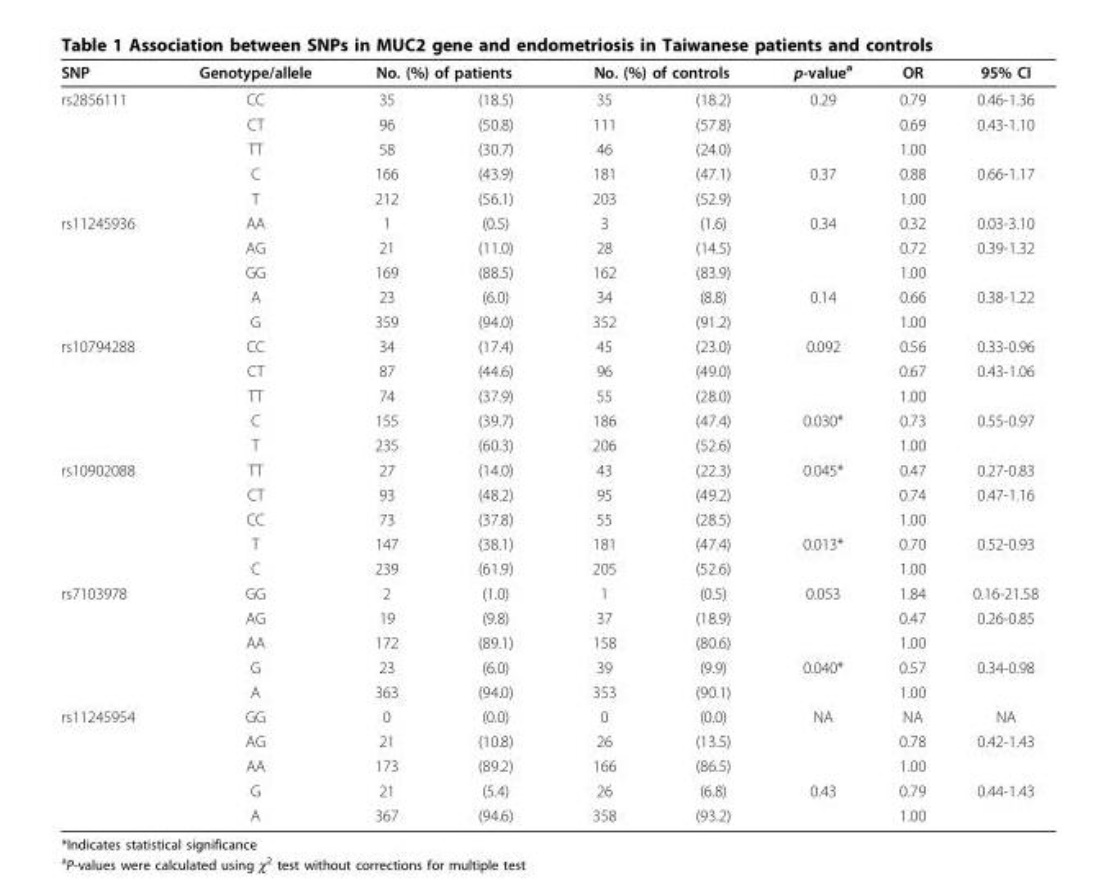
<table><thead><tr><td rowspan="2">SNP rs2856111</td><td rowspan="2">Genotype/allele CC</td><td colspan="2">No. (%) of patients</td><td colspan="2">No. (%) of controls</td><td rowspan="2">p-value<sup>a</sup> 0.29</td><td rowspan="2">OR 0.79</td><td rowspan="2">95% CI 0.46-1.36</td></tr><tr><td>35</td><td>(18.5)</td><td>35</td><td>(18.2)</td></tr></thead><tbody><tr><td></td><td>CT</td><td>96</td><td>(50.8)</td><td>111</td><td>(57.8)</td><td></td><td>0.69</td><td>0.43-1.10</td></tr><tr><td></td><td>TT</td><td>58</td><td>(30.7)</td><td>46</td><td>(24.0)</td><td></td><td>1.00</td><td></td></tr><tr><td></td><td>C</td><td>166</td><td>(43.9)</td><td>181</td><td>(47.1)</td><td>0.37</td><td>0.88</td><td>0.66-1.17</td></tr><tr><td></td><td>T</td><td>212</td><td>(56.1)</td><td>203</td><td>(52.9)</td><td></td><td>1.00</td><td></td></tr><tr><td rowspan="5">rs11245936</td><td>AA</td><td>1</td><td>(0.5)</td><td>3</td><td>(1.6)</td><td>0.34</td><td>0.32</td><td>0.03-3.10</td></tr><tr><td>AG</td><td>21</td><td>(11.0)</td><td>28</td><td>(14.5)</td><td></td><td>0.72</td><td>0.39-1.32</td></tr><tr><td>GG</td><td>169</td><td>(88.5)</td><td>162</td><td>(83.9)</td><td></td><td>1.00</td><td></td></tr><tr><td>A</td><td>23</td><td>(6.0)</td><td>34</td><td>(8.8)</td><td>0.14</td><td>0.66</td><td>0.38-1.22</td></tr><tr><td>G</td><td>359</td><td>(94.0)</td><td>352</td><td>(91.2)</td><td></td><td>1.00</td><td></td></tr><tr><td rowspan="5">rs10794288</td><td>CC</td><td>34</td><td>(17.4)</td><td>45</td><td>(23.0)</td><td>0.092</td><td>0.56</td><td>0.33-0.96</td></tr><tr><td>CT</td><td>87</td><td>(44.6)</td><td>96</td><td>(49.0)</td><td></td><td>0.67</td><td>0.43-1.06</td></tr><tr><td>TT</td><td>74</td><td>(37.9)</td><td>55</td><td>(28.0)</td><td></td><td>1.00</td><td></td></tr><tr><td>C</td><td>155</td><td>(39.7)</td><td>186</td><td>(47.4)</td><td>0.030*</td><td>0.73</td><td>0.55-0.97</td></tr><tr><td>T</td><td>235</td><td>(60.3)</td><td>206</td><td>(52.6)</td><td></td><td>1.00</td><td></td></tr><tr><td rowspan="5">rs10902088</td><td>TT</td><td>27</td><td>(14.0)</td><td>43</td><td>(22.3)</td><td>0.045*</td><td>0.47</td><td>0.27-0.83</td></tr><tr><td>CT</td><td>93</td><td>(48.2)</td><td>95</td><td>(49.2)</td><td></td><td>0.74</td><td>0.47-1.16</td></tr><tr><td>CC</td><td>73</td><td>(37.8)</td><td>55</td><td>(28.5)</td><td></td><td>1.00</td><td></td></tr><tr><td>T</td><td>147</td><td>(38.1)</td><td>181</td><td>(47.4)</td><td>0.013*</td><td>0.70</td><td>0.52-0.93</td></tr><tr><td>C</td><td>239</td><td>(61.9)</td><td>205</td><td>(52.6)</td><td></td><td>1.00</td><td></td></tr><tr><td rowspan="5">rs7103978</td><td>GG</td><td>2</td><td>(1.0)</td><td>1</td><td>(0.5)</td><td>0.053</td><td>1.84</td><td>0.16-21.58</td></tr><tr><td>AG</td><td>19</td><td>(9.8)</td><td>37</td><td>(18.9)</td><td></td><td>0.47</td><td>0.26-0.85</td></tr><tr><td>AA</td><td>172</td><td>(89.1)</td><td>158</td><td>(80.6)</td><td></td><td>1.00</td><td></td></tr><tr><td>G</td><td>23</td><td>(6.0)</td><td>39</td><td>(9.9)</td><td>0.040*</td><td>0.57</td><td>0.34-0.98</td></tr><tr><td>A</td><td>363</td><td>(94.0)</td><td>353</td><td>(90.1)</td><td></td><td>1.00</td><td></td></tr><tr><td rowspan="5">rs11245954</td><td>GG</td><td>0</td><td>(0.0)</td><td>0</td><td>(0.0)</td><td>NA</td><td>NA</td><td>NA</td></tr><tr><td>AG</td><td>21</td><td>(10.8)</td><td>26</td><td>(13.5)</td><td></td><td>0.78</td><td>0.42-1.43</td></tr><tr><td>AA</td><td>173</td><td>(89.2)</td><td>166</td><td>(86.5)</td><td></td><td>1.00</td><td></td></tr><tr><td>G</td><td>21</td><td>(5.4)</td><td>26</td><td>(6.8)</td><td>0.43</td><td>0.79</td><td>0.44-1.43</td></tr><tr><td>A</td><td>367</td><td>(94.6)</td><td>358</td><td>(93.2)</td><td></td><td>1.00</td><td></td></tr></tbody></table>